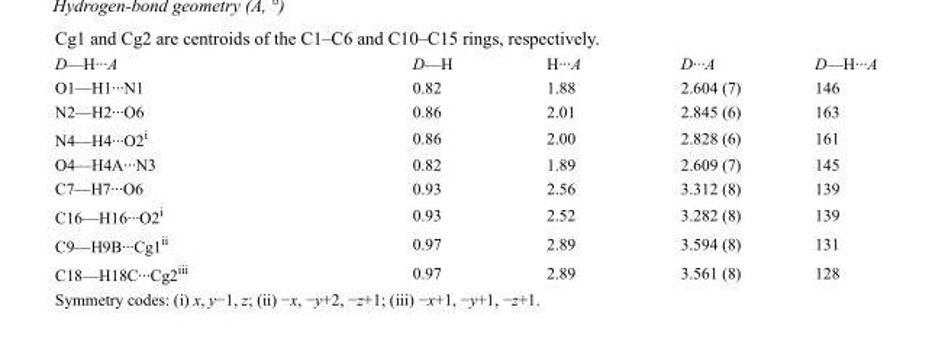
<table><tbody><tr><td>D—H···A</td><td>D—H</td><td>H···A</td><td>D···A</td><td>D—H···A</td></tr><tr><td>O1—H1···N1</td><td>0.82</td><td>1.88</td><td>2.604 (7)</td><td>146</td></tr><tr><td>N2—H2···O6</td><td>0.86</td><td>2.01</td><td>2.845 (6)</td><td>163</td></tr><tr><td>N4—H4···O2<sup>i</sup></td><td>0.86</td><td>2.00</td><td>2.828 (6)</td><td>161</td></tr><tr><td>O4—H4A···N3</td><td>0.82</td><td>1.89</td><td>2.609 (7)</td><td>145</td></tr><tr><td>C7—H7···O6</td><td>0.93</td><td>2.56</td><td>3.312 (8)</td><td>139</td></tr><tr><td>C16—H16···O2<sup>i</sup></td><td>0.93</td><td>2.52</td><td>3.282 (8)</td><td>139</td></tr><tr><td>C9—H9B···Cg1<sup>ii</sup></td><td>0.97</td><td>2.89</td><td>3.594 (8)</td><td>131</td></tr><tr><td>C18—H18C···Cg2<sup>iii</sup></td><td>0.97</td><td>2.89</td><td>3.561 (8)</td><td>128</td></tr></tbody></table>